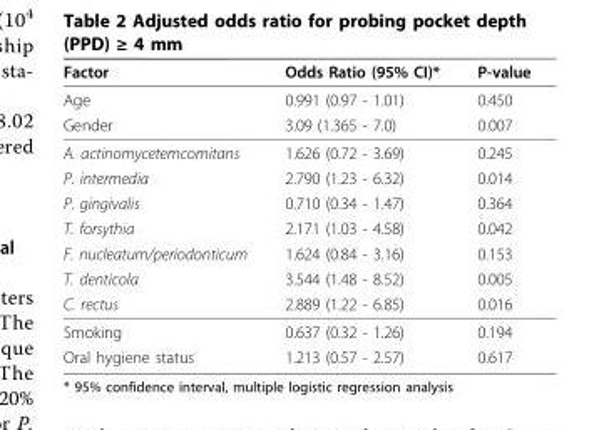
<table><thead><tr><td>Factor</td><td>Odds Ratio (95% CI)*</td><td>P-value</td></tr></thead><tbody><tr><td>Age</td><td>0.991 (0.97 - 1.01)</td><td>0.450</td></tr><tr><td>Gender</td><td>3.09 (1.365 - 7.0)</td><td>0.007</td></tr><tr><td>A. actinomycetemcomitans</td><td>1.626 (0.72 - 3.69)</td><td>0.245</td></tr><tr><td>P. intermedia</td><td>2.790 (1.23 - 6.32)</td><td>0.014</td></tr><tr><td>P. gingivalis</td><td>0.710 (0.34 - 1.47)</td><td>0.364</td></tr><tr><td>T. forsythia</td><td>2.171 (1.03 - 4.58)</td><td>0.042</td></tr><tr><td>F. nucleatum/periodonticum</td><td>1.624 (0.84 - 3.16)</td><td>0.153</td></tr><tr><td>T. denticola</td><td>3.544 (1.48 - 8.52)</td><td>0.005</td></tr><tr><td>C. rectus</td><td>2.889 (1.22 - 6.85)</td><td>0.016</td></tr><tr><td>Smoking</td><td>0.637 (0.32 - 1.26)</td><td>0.194</td></tr><tr><td>Oral hygiene status</td><td>1.213 (0.57 - 2.57)</td><td>0.617</td></tr></tbody></table>